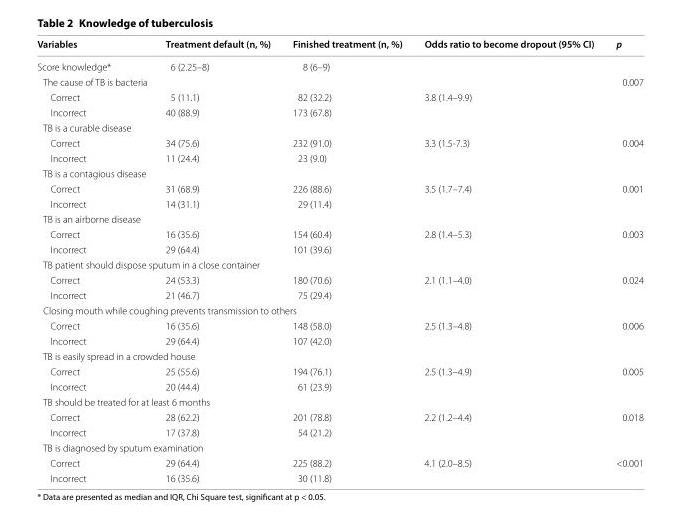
<table><thead><tr><td>Variables</td><td>Treatment default (n, %)</td><td>Finished treatment (n, %)</td><td>Odds ratio to become dropout (95% CI)</td><td>p</td></tr></thead><tbody><tr><td>Score knowledge*</td><td>6 (2.25–8)</td><td>8 (6–9)</td><td></td><td></td></tr><tr><td>The cause of TB is bacteria</td><td></td><td></td><td></td><td>0.007</td></tr><tr><td>Correct</td><td>5 (11.1)</td><td>82 (32.2)</td><td>3.8 (1.4–9.9)</td><td></td></tr><tr><td>Incorrect</td><td>40 (88.9)</td><td>173 (67.8)</td><td></td><td></td></tr><tr><td colspan="5">TB is a curable disease</td></tr><tr><td>Correct</td><td>34 (75.6)</td><td>232 (91.0)</td><td>3.3 (1.5-7.3)</td><td>0.004</td></tr><tr><td>Incorrect</td><td>11 (24.4)</td><td>23 (9.0)</td><td></td><td></td></tr><tr><td colspan="5">TB is a contagious disease</td></tr><tr><td>Correct</td><td>31 (68.9)</td><td>226 (88.6)</td><td>3.5 (1.7–7.4)</td><td>0.001</td></tr><tr><td>Incorrect</td><td>14 (31.1)</td><td>29 (11.4)</td><td></td><td></td></tr><tr><td colspan="5">TB is an airborne disease</td></tr><tr><td>Correct</td><td>16 (35.6)</td><td>154 (60.4)</td><td>2.8 (1.4–5.3)</td><td>0.003</td></tr><tr><td>Incorrect</td><td>29 (64.4)</td><td>101 (39.6)</td><td></td><td></td></tr><tr><td colspan="5">TB patient should dispose sputum in a close container</td></tr><tr><td>Correct</td><td>24 (53.3)</td><td>180 (70.6)</td><td>2.1 (1.1–4.0)</td><td>0.024</td></tr><tr><td>Incorrect</td><td>21 (46.7)</td><td>75 (29.4)</td><td></td><td></td></tr><tr><td colspan="5">Closing mouth while coughing prevents transmission to others</td></tr><tr><td>Correct</td><td>16 (35.6)</td><td>148 (58.0)</td><td>2.5 (1.3–4.8)</td><td>0.006</td></tr><tr><td>Incorrect</td><td>29 (64.4)</td><td>107 (42.0)</td><td></td><td></td></tr><tr><td colspan="5">TB is easily spread in a crowded house</td></tr><tr><td>Correct</td><td>25 (55.6)</td><td>194 (76.1)</td><td>2.5 (1.3–4.9)</td><td>0.005</td></tr><tr><td>Incorrect</td><td>20 (44.4)</td><td>61 (23.9)</td><td></td><td></td></tr><tr><td colspan="5">TB should be treated for at least 6 months</td></tr><tr><td>Correct</td><td>28 (62.2)</td><td>201 (78.8)</td><td>2.2 (1.2–4.4)</td><td>0.018</td></tr><tr><td>Incorrect</td><td>17 (37.8)</td><td>54 (21.2)</td><td></td><td></td></tr><tr><td colspan="5">TB is diagnosed by sputum examination</td></tr><tr><td>Correct</td><td>29 (64.4)</td><td>225 (88.2)</td><td>4.1 (2.0–8.5)</td><td>&lt;0.001</td></tr><tr><td>Incorrect</td><td>16 (35.6)</td><td>30 (11.8)</td><td></td><td></td></tr></tbody></table>